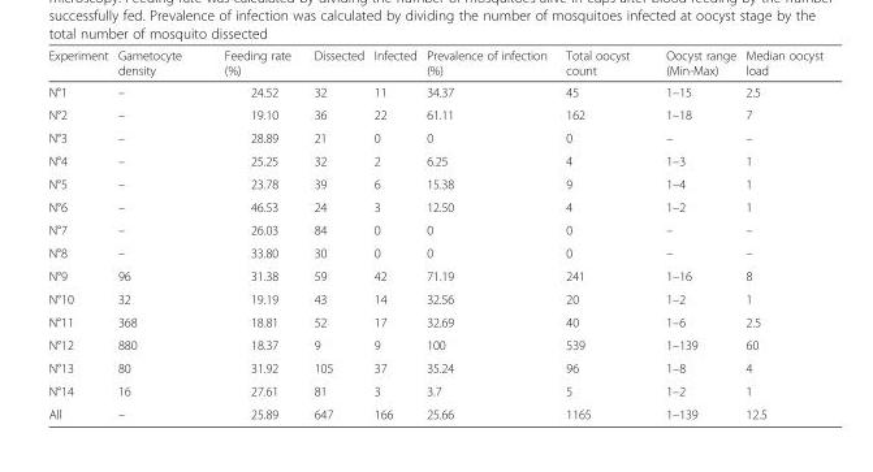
<table><thead><tr><td>Experiment</td><td>Gametocyte density</td><td>Feeding rate (%)</td><td>Dissected</td><td>Infected</td><td>Prevalence of infection (%)</td><td>Total oocyst count</td><td>Oocyst range (Min-Max)</td><td>Median oocyst load</td></tr></thead><tbody><tr><td>N°1</td><td>–</td><td>24.52</td><td>32</td><td>11</td><td>34.37</td><td>45</td><td>1–15</td><td>2.5</td></tr><tr><td>N°2</td><td>–</td><td>19.10</td><td>36</td><td>22</td><td>61.11</td><td>162</td><td>1–18</td><td>7</td></tr><tr><td>N°3</td><td>–</td><td>28.89</td><td>21</td><td>0</td><td>0</td><td>0</td><td>–</td><td>–</td></tr><tr><td>N°4</td><td>–</td><td>25.25</td><td>32</td><td>2</td><td>6.25</td><td>4</td><td>1–3</td><td>1</td></tr><tr><td>N°5</td><td>–</td><td>23.78</td><td>39</td><td>6</td><td>15.38</td><td>9</td><td>1–4</td><td>1</td></tr><tr><td>N°6</td><td>–</td><td>46.53</td><td>24</td><td>3</td><td>12.50</td><td>4</td><td>1–2</td><td>1</td></tr><tr><td>N°7</td><td>–</td><td>26.03</td><td>84</td><td>0</td><td>0</td><td>0</td><td>–</td><td>–</td></tr><tr><td>N°8</td><td>–</td><td>33.80</td><td>30</td><td>0</td><td>0</td><td>0</td><td>–</td><td>–</td></tr><tr><td>N°9</td><td>96</td><td>31.38</td><td>59</td><td>42</td><td>71.19</td><td>241</td><td>1–16</td><td>8</td></tr><tr><td>N°10</td><td>32</td><td>19.19</td><td>43</td><td>14</td><td>32.56</td><td>20</td><td>1–2</td><td>1</td></tr><tr><td>N°11</td><td>368</td><td>18.81</td><td>52</td><td>17</td><td>32.69</td><td>40</td><td>1–6</td><td>2.5</td></tr><tr><td>N°12</td><td>880</td><td>18.37</td><td>9</td><td>9</td><td>100</td><td>539</td><td>1–139</td><td>60</td></tr><tr><td>N°13</td><td>80</td><td>31.92</td><td>105</td><td>37</td><td>35.24</td><td>96</td><td>1–8</td><td>4</td></tr><tr><td>N°14</td><td>16</td><td>27.61</td><td>81</td><td>3</td><td>3.7</td><td>5</td><td>1–2</td><td>1</td></tr><tr><td>All</td><td>–</td><td>25.89</td><td>647</td><td>166</td><td>25.66</td><td>1165</td><td>1–139</td><td>12.5</td></tr></tbody></table>